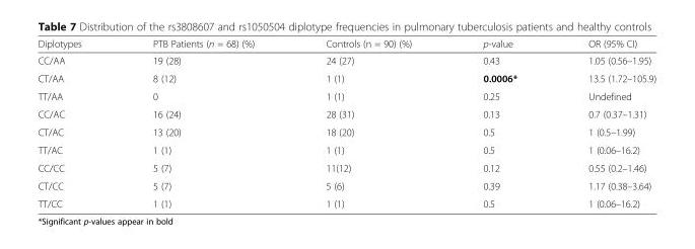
<table><thead><tr><td>Diplotypes</td><td>PTB Patients (n = 68) (%)</td><td>Controls (n = 90) (%)</td><td>p-value</td><td>OR (95% CI)</td></tr></thead><tbody><tr><td>CC/AA</td><td>19 (28)</td><td>24 (27)</td><td>0.43</td><td>1.05 (0.56–1.95)</td></tr><tr><td>CT/AA</td><td>8 (12)</td><td>1 (1)</td><td>0.0006*</td><td>13.5 (1.72–105.9)</td></tr><tr><td>TT/AA</td><td>0</td><td>1 (1)</td><td>0.25</td><td>Undefined</td></tr><tr><td>CC/AC</td><td>16 (24)</td><td>28 (31)</td><td>0.13</td><td>0.7 (0.37–1.31)</td></tr><tr><td>CT/AC</td><td>13 (20)</td><td>18 (20)</td><td>0.5</td><td>1 (0.5–1.99)</td></tr><tr><td>TT/AC</td><td>1 (1)</td><td>1 (1)</td><td>0.5</td><td>1 (0.06–16.2)</td></tr><tr><td>CC/CC</td><td>5 (7)</td><td>11(12)</td><td>0.12</td><td>0.55 (0.2–1.46)</td></tr><tr><td>CT/CC</td><td>5 (7)</td><td>5 (6)</td><td>0.39</td><td>1.17 (0.38–3.64)</td></tr><tr><td>TT/CC</td><td>1 (1)</td><td>1 (1)</td><td>0.5</td><td>1 (0.06–16.2)</td></tr></tbody></table>